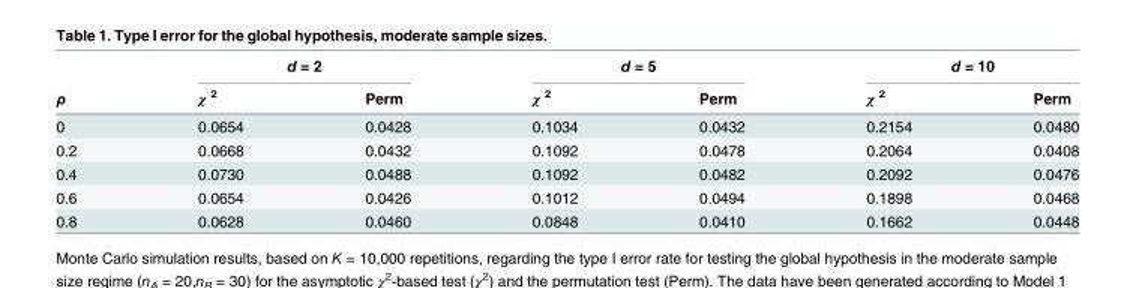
<table><thead><tr><td rowspan="2">ρ</td><td colspan="2">d = 2</td><td colspan="2">d = 5</td><td colspan="2">d = 10</td></tr><tr><td>χ <sup>2</sup></td><td>Perm</td><td>χ <sup>2</sup></td><td>Perm</td><td>χ <sup>2</sup></td><td>Perm</td></tr></thead><tbody><tr><td>0</td><td>0.0654</td><td>0.0428</td><td>0.1034</td><td>0.0432</td><td>0.2154</td><td>0.0480</td></tr><tr><td>0.2</td><td>0.0668</td><td>0.0432</td><td>0.1092</td><td>0.0478</td><td>0.2064</td><td>0.0408</td></tr><tr><td>0.4</td><td>0.0730</td><td>0.0488</td><td>0.1092</td><td>0.0482</td><td>0.2092</td><td>0.0476</td></tr><tr><td>0.6</td><td>0.0654</td><td>0.0426</td><td>0.1012</td><td>0.0494</td><td>0.1898</td><td>0.0468</td></tr><tr><td>0.8</td><td>0.0628</td><td>0.0460</td><td>0.0848</td><td>0.0410</td><td>0.1662</td><td>0.0448</td></tr></tbody></table>